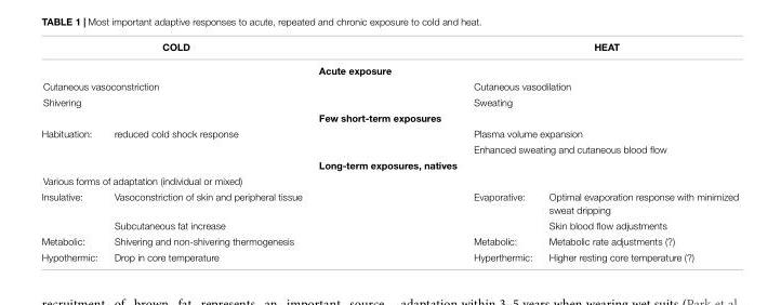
<table><thead><tr><td colspan="2">COLD</td><td></td><td colspan="2">HEAT</td></tr></thead><tbody><tr><td colspan="2"></td><td>Acute exposure</td><td colspan="2"></td></tr><tr><td colspan="2">Cutaneous vasoconstriction</td><td></td><td colspan="2">Cutaneous vasodilation</td></tr><tr><td rowspan="2" colspan="2">Shivering</td><td></td><td colspan="2">Sweating</td></tr><tr><td>Few short-term exposures</td><td colspan="2"></td></tr><tr><td rowspan="2">Habituation:</td><td>reduced cold shock response</td><td></td><td colspan="2">Plasma volume expansion</td></tr><tr><td></td><td></td><td colspan="2">Enhanced sweating and cutaneous blood flow</td></tr><tr><td colspan="2"></td><td>Long-term exposures, natives</td><td colspan="2"></td></tr><tr><td colspan="5">Various forms of adaptation (individual or mixed)</td></tr><tr><td rowspan="2">Insulative:</td><td>Vasoconstriction of skin and peripheral tissue</td><td></td><td>Evaporative:</td><td>Optimal evaporation response with minimized sweat dripping</td></tr><tr><td>Subcutaneous fat increase</td><td></td><td></td><td>Skin blood flow adjustments</td></tr><tr><td>Metabolic:</td><td>Shivering and non-shivering thermogenesis</td><td></td><td>Metabolic:</td><td>Metabolic rate adjustments (?)</td></tr><tr><td>Hypothermic:</td><td>Drop in core temperature</td><td></td><td>Hyperthermic:</td><td>Higher resting core temperature (?)</td></tr></tbody></table>